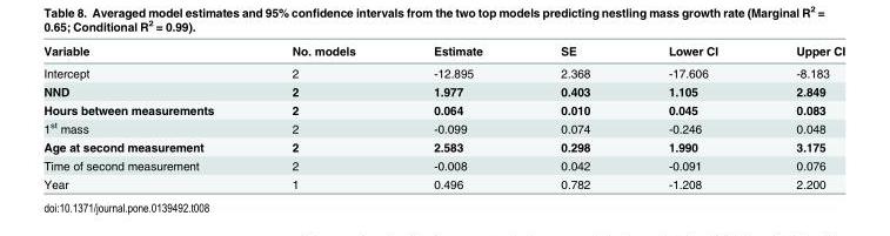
<table><thead><tr><td>Variable</td><td>No. models</td><td>Estimate</td><td>SE</td><td>Lower CI</td><td>Upper CI</td></tr></thead><tbody><tr><td>Intercept</td><td>2</td><td>-12.895</td><td>2.368</td><td>-17.606</td><td>-8.183</td></tr><tr><td>NND</td><td>2</td><td>1.977</td><td>0.403</td><td>1.105</td><td>2.849</td></tr><tr><td>Hours between measurements</td><td>2</td><td>0.064</td><td>0.010</td><td>0.045</td><td>0.083</td></tr><tr><td>1<sup>st</sup> mass</td><td>2</td><td>-0.099</td><td>0.074</td><td>-0.246</td><td>0.048</td></tr><tr><td>Age at second measurement</td><td>2</td><td>2.583</td><td>0.298</td><td>1.990</td><td>3.175</td></tr><tr><td>Time of second measurement</td><td>2</td><td>-0.008</td><td>0.042</td><td>-0.091</td><td>0.076</td></tr><tr><td>Year</td><td>1</td><td>0.496</td><td>0.782</td><td>-1.208</td><td>2.200</td></tr></tbody></table>